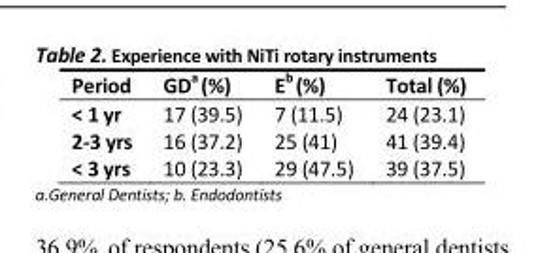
<table><thead><tr><td>Period</td><td>GD<sup>a</sup>(%)</td><td>Eb(%)</td><td>Total (%)</td></tr></thead><tbody><tr><td>&lt; 1 yr</td><td>17 (39.5)</td><td>7 (11.5)</td><td>24 (23.1)</td></tr><tr><td>2-3 yrs</td><td>16 (37.2)</td><td>25 (41)</td><td>41 (39.4)</td></tr><tr><td>&lt; 3 yrs</td><td>10 (23.3)</td><td>29 (47.5)</td><td>39 (37.5)</td></tr></tbody></table>